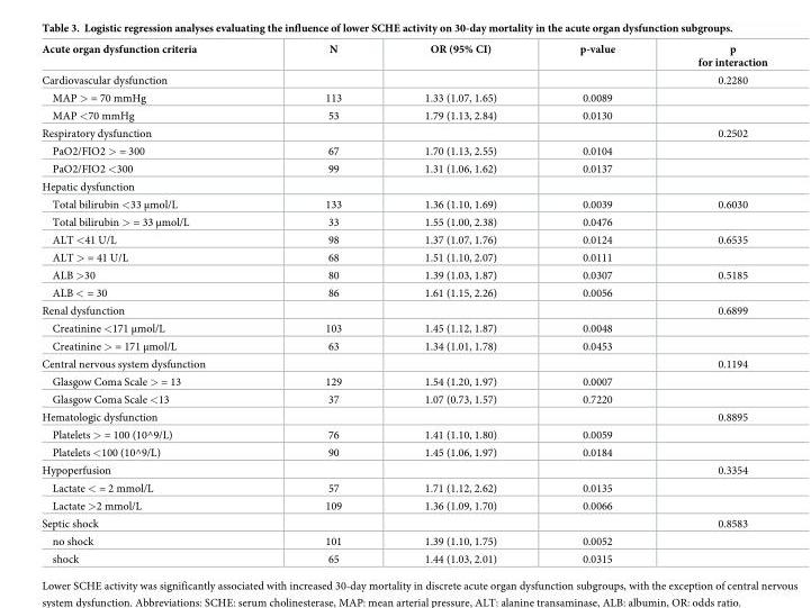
<table><thead><tr><td>Acute organ dysfunction criteria</td><td>N</td><td>OR (95% CI)</td><td>p-value</td><td>p for interaction</td></tr></thead><tbody><tr><td>Cardiovascular dysfunction</td><td></td><td></td><td></td><td>0.2280</td></tr><tr><td>MAP &gt; = 70 mmHg</td><td>113</td><td>1.33 (1.07, 1.65)</td><td>0.0089</td><td></td></tr><tr><td>MAP &lt;70 mmHg</td><td>53</td><td>1.79 (1.13, 2.84)</td><td>0.0130</td><td></td></tr><tr><td>Respiratory dysfunction</td><td></td><td></td><td></td><td>0.2502</td></tr><tr><td>PaO2/FIO2 &gt; = 300</td><td>67</td><td>1.70 (1.13, 2.55)</td><td>0.0104</td><td></td></tr><tr><td>PaO2/FIO2 &lt;300</td><td>99</td><td>1.31 (1.06, 1.62)</td><td>0.0137</td><td></td></tr><tr><td colspan="5">Hepatic dysfunction</td></tr><tr><td>Total bilirubin &lt;33 μmol/L</td><td>133</td><td>1.36 (1.10, 1.69)</td><td>0.0039</td><td>0.6030</td></tr><tr><td>Total bilirubin &gt; = 33 μmol/L</td><td>33</td><td>1.55 (1.00, 2.38)</td><td>0.0476</td><td></td></tr><tr><td>ALT &lt;41 U/L</td><td>98</td><td>1.37 (1.07, 1.76)</td><td>0.0124</td><td>0.6535</td></tr><tr><td>ALT &gt; = 41 U/L</td><td>68</td><td>1.51 (1.10, 2.07)</td><td>0.0111</td><td></td></tr><tr><td>ALB &gt;30</td><td>80</td><td>1.39 (1.03, 1.87)</td><td>0.0307</td><td>0.5185</td></tr><tr><td>ALB &lt; = 30</td><td>86</td><td>1.61 (1.15, 2.26)</td><td>0.0056</td><td></td></tr><tr><td>Renal dysfunction</td><td></td><td></td><td></td><td>0.6899</td></tr><tr><td>Creatinine &lt;171 μmol/L</td><td>103</td><td>1.45 (1.12, 1.87)</td><td>0.0048</td><td></td></tr><tr><td>Creatinine &gt; = 171 μmol/L</td><td>63</td><td>1.34 (1.01, 1.78)</td><td>0.0453</td><td></td></tr><tr><td>Central nervous system dysfunction</td><td></td><td></td><td></td><td>0.1194</td></tr><tr><td>Glasgow Coma Scale &gt; = 13</td><td>129</td><td>1.54 (1.20, 1.97)</td><td>0.0007</td><td></td></tr><tr><td>Glasgow Coma Scale &lt;13</td><td>37</td><td>1.07 (0.73, 1.57)</td><td>0.7220</td><td></td></tr><tr><td>Hematologic dysfunction</td><td></td><td></td><td></td><td>0.8895</td></tr><tr><td>Platelets &gt; = 100 (10^9/L)</td><td>76</td><td>1.41 (1.10, 1.80)</td><td>0.0059</td><td></td></tr><tr><td>Platelets &lt;100 (10^9/L)</td><td>90</td><td>1.45 (1.06, 1.97)</td><td>0.0184</td><td></td></tr><tr><td>Hypoperfusion</td><td></td><td></td><td></td><td>0.3354</td></tr><tr><td>Lactate &lt; = 2 mmol/L</td><td>57</td><td>1.71 (1.12, 2.62)</td><td>0.0135</td><td></td></tr><tr><td>Lactate &gt;2 mmol/L</td><td>109</td><td>1.36 (1.09, 1.70)</td><td>0.0066</td><td></td></tr><tr><td>Septic shock</td><td></td><td></td><td></td><td>0.8583</td></tr><tr><td>no shock</td><td>101</td><td>1.39 (1.10, 1.75)</td><td>0.0052</td><td></td></tr><tr><td>shock</td><td>65</td><td>1.44 (1.03, 2.01)</td><td>0.0315</td><td></td></tr></tbody></table>